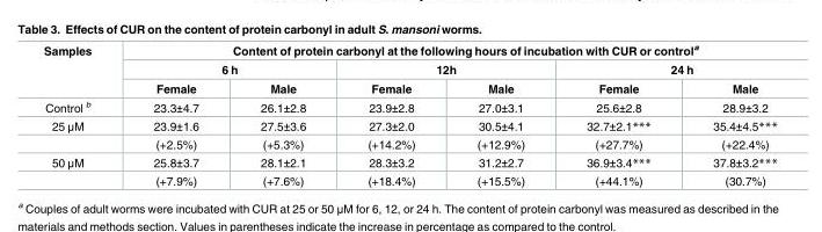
<table><thead><tr><td rowspan="3">Samples</td><td colspan="6">Content of protein carbonyl at the following hours of incubation with CUR or control<sup>a</sup></td></tr><tr><td colspan="2">6 h</td><td colspan="2">12h</td><td colspan="2">24 h</td></tr><tr><td>Female</td><td>Male</td><td>Female</td><td>Male</td><td>Female</td><td>Male</td></tr></thead><tbody><tr><td>Control <sup>b</sup></td><td>23.3±4.7</td><td>26.1±2.8</td><td>23.9±2.8</td><td>27.0±3.1</td><td>25.6±2.8</td><td>28.9±3.2</td></tr><tr><td rowspan="2">25 μM</td><td>23.9±1.6</td><td>27.5±3.6</td><td>27.3±2.0</td><td>30.5±4.1</td><td>32.7±2.1***</td><td>35.4±4.5***</td></tr><tr><td>(+2.5%)</td><td>(+5.3%)</td><td>(+14.2%)</td><td>(+12.9%)</td><td>(+27.7%)</td><td>(+22.4%)</td></tr><tr><td rowspan="2">50 μM</td><td>25.8±3.7</td><td>28.1±2.1</td><td>28.3±3.2</td><td>31.2±2.7</td><td>36.9±3.4***</td><td>37.8±3.2***</td></tr><tr><td>(+7.9%)</td><td>(+7.6%)</td><td>(+18.4%)</td><td>(+15.5%)</td><td>(+44.1%)</td><td>(30.7%)</td></tr></tbody></table>